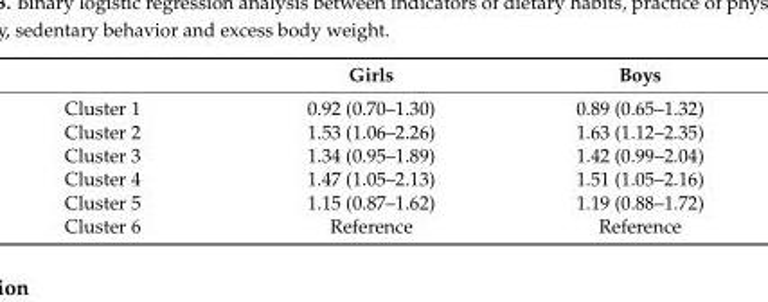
<table><thead><tr><td></td><td>Girls</td><td>Boys</td></tr></thead><tbody><tr><td>Cluster 1</td><td>0.92 (0.70–1.30)</td><td>0.89 (0.65–1.32)</td></tr><tr><td>Cluster 2</td><td>1.53 (1.06–2.26)</td><td>1.63 (1.12–2.35)</td></tr><tr><td>Cluster 3</td><td>1.34 (0.95–1.89)</td><td>1.42 (0.99–2.04)</td></tr><tr><td>Cluster 4</td><td>1.47 (1.05–2.13)</td><td>1.51 (1.05–2.16)</td></tr><tr><td>Cluster 5</td><td>1.15 (0.87–1.62)</td><td>1.19 (0.88–1.72)</td></tr><tr><td>Cluster 6</td><td>Reference</td><td>Reference</td></tr></tbody></table>